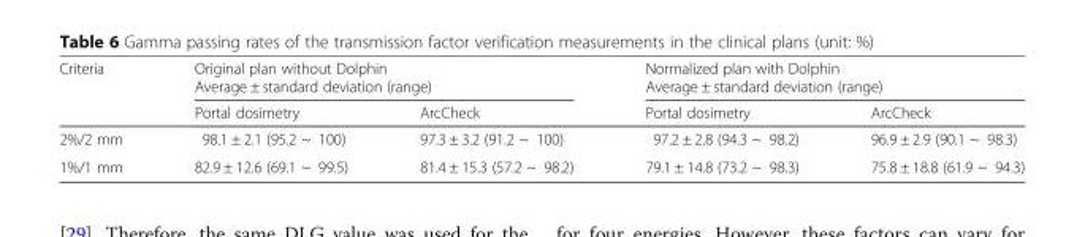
<table><thead><tr><td rowspan="2">Criteria</td><td colspan="2">Original plan without Dolphin Average ± standard deviation (range)</td><td colspan="2">Normalized plan with Dolphin Average ± standard deviation (range)</td></tr><tr><td>Portal dosimetry</td><td>ArcCheck</td><td>Portal dosimetry</td><td>ArcCheck</td></tr></thead><tbody><tr><td>2%/2 mm</td><td>98.1 ± 2.1 (95.2 ~ 100)</td><td>97.3 ± 3.2 (91.2 ~ 100)</td><td>97.2 ± 2.8 (94.3 ~ 98.2)</td><td>96.9 ± 2.9 (90.1 ~ 98.3)</td></tr><tr><td>1%/1 mm</td><td>82.9 ± 12.6 (69.1 ~ 99.5)</td><td>81.4 ± 15.3 (57.2 ~ 98.2)</td><td>79.1 ± 14.8 (73.2 ~ 98.3)</td><td>75.8 ± 18.8 (61.9 ~ 94.3)</td></tr></tbody></table>